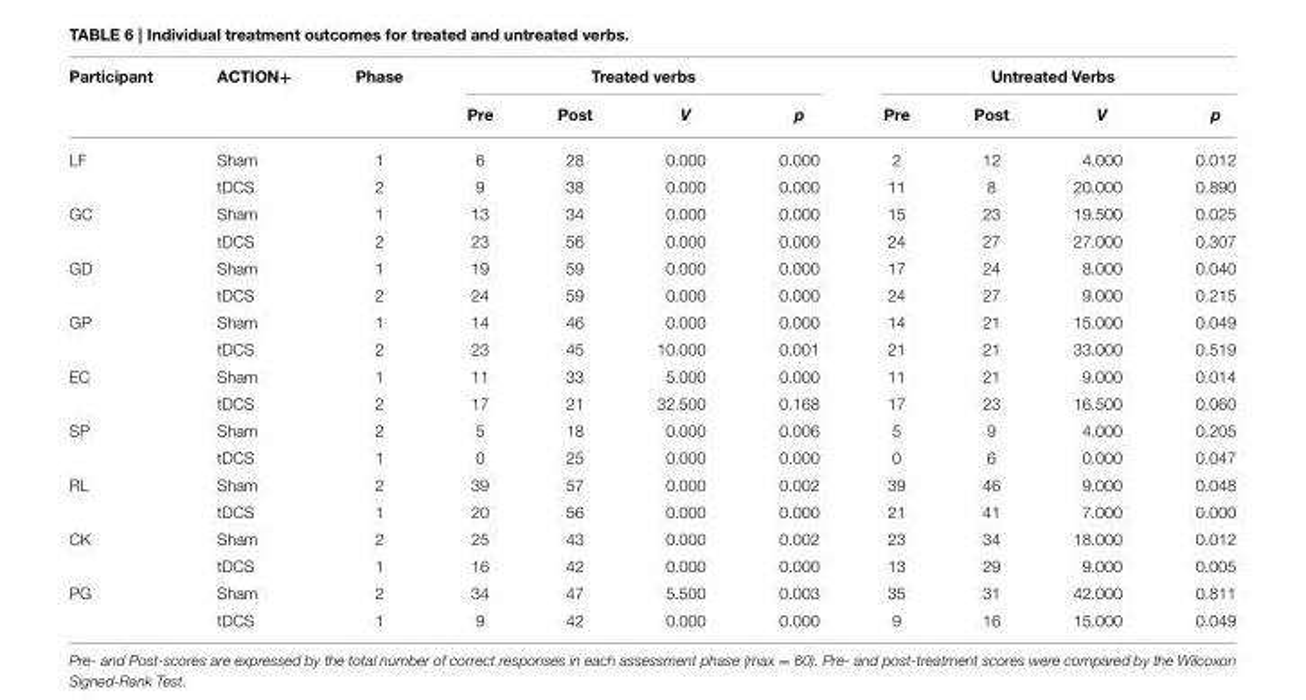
<table><thead><tr><td rowspan="2">Participant</td><td rowspan="2">ACTION+</td><td rowspan="2">Phase</td><td colspan="4">Treated verbs</td><td colspan="4">Untreated Verbs</td></tr><tr><td>Pre</td><td>Post</td><td>V</td><td>p</td><td>Pre</td><td>Post</td><td>V</td><td>p</td></tr></thead><tbody><tr><td rowspan="2">LF</td><td>Sham</td><td>1</td><td>6</td><td>28</td><td>0.000</td><td>0.000</td><td>2</td><td>12</td><td>4.000</td><td>0.012</td></tr><tr><td>tDCS</td><td>2</td><td>9</td><td>38</td><td>0.000</td><td>0.000</td><td>11</td><td>8</td><td>20.000</td><td>0.890</td></tr><tr><td rowspan="2">GC</td><td>Sham</td><td>1</td><td>13</td><td>34</td><td>0.000</td><td>0.000</td><td>15</td><td>23</td><td>19.500</td><td>0.025</td></tr><tr><td>tDCS</td><td>2</td><td>23</td><td>56</td><td>0.000</td><td>0.000</td><td>24</td><td>27</td><td>27.000</td><td>0.307</td></tr><tr><td rowspan="2">GD</td><td>Sham</td><td>1</td><td>19</td><td>59</td><td>0.000</td><td>0.000</td><td>17</td><td>24</td><td>8.000</td><td>0.040</td></tr><tr><td>tDCS</td><td>2</td><td>24</td><td>59</td><td>0.000</td><td>0.000</td><td>24</td><td>27</td><td>9.000</td><td>0.215</td></tr><tr><td rowspan="2">GP</td><td>Sham</td><td>1</td><td>14</td><td>46</td><td>0.000</td><td>0.000</td><td>14</td><td>21</td><td>15.000</td><td>0.049</td></tr><tr><td>tDCS</td><td>2</td><td>23</td><td>45</td><td>10.000</td><td>0.001</td><td>21</td><td>21</td><td>33.000</td><td>0.519</td></tr><tr><td rowspan="2">EC</td><td>Sham</td><td>1</td><td>11</td><td>33</td><td>5.000</td><td>0.000</td><td>11</td><td>21</td><td>9.000</td><td>0.014</td></tr><tr><td>tDCS</td><td>2</td><td>17</td><td>21</td><td>32.500</td><td>0.168</td><td>17</td><td>23</td><td>16.500</td><td>0.060</td></tr><tr><td rowspan="2">SP</td><td>Sham</td><td>2</td><td>5</td><td>18</td><td>0.000</td><td>0.006</td><td>5</td><td>9</td><td>4.000</td><td>0.205</td></tr><tr><td>tDCS</td><td>1</td><td>0</td><td>25</td><td>0.000</td><td>0.000</td><td>0</td><td>6</td><td>0.000</td><td>0.047</td></tr><tr><td rowspan="2">RL</td><td>Sham</td><td>2</td><td>39</td><td>57</td><td>0.000</td><td>0.002</td><td>39</td><td>46</td><td>9.000</td><td>0.048</td></tr><tr><td>tDCS</td><td>1</td><td>20</td><td>56</td><td>0.000</td><td>0.000</td><td>21</td><td>41</td><td>7.000</td><td>0.000</td></tr><tr><td rowspan="2">CK</td><td>Sham</td><td>2</td><td>25</td><td>43</td><td>0.000</td><td>0.002</td><td>23</td><td>34</td><td>18.000</td><td>0.012</td></tr><tr><td>tDCS</td><td>1</td><td>16</td><td>42</td><td>0.000</td><td>0.000</td><td>13</td><td>29</td><td>9.000</td><td>0.005</td></tr><tr><td rowspan="2">PG</td><td>Sham</td><td>2</td><td>34</td><td>47</td><td>5.500</td><td>0.003</td><td>35</td><td>31</td><td>42.000</td><td>0.811</td></tr><tr><td>tDCS</td><td>1</td><td>9</td><td>42</td><td>0.000</td><td>0.000</td><td>9</td><td>16</td><td>15.000</td><td>0.049</td></tr></tbody></table>